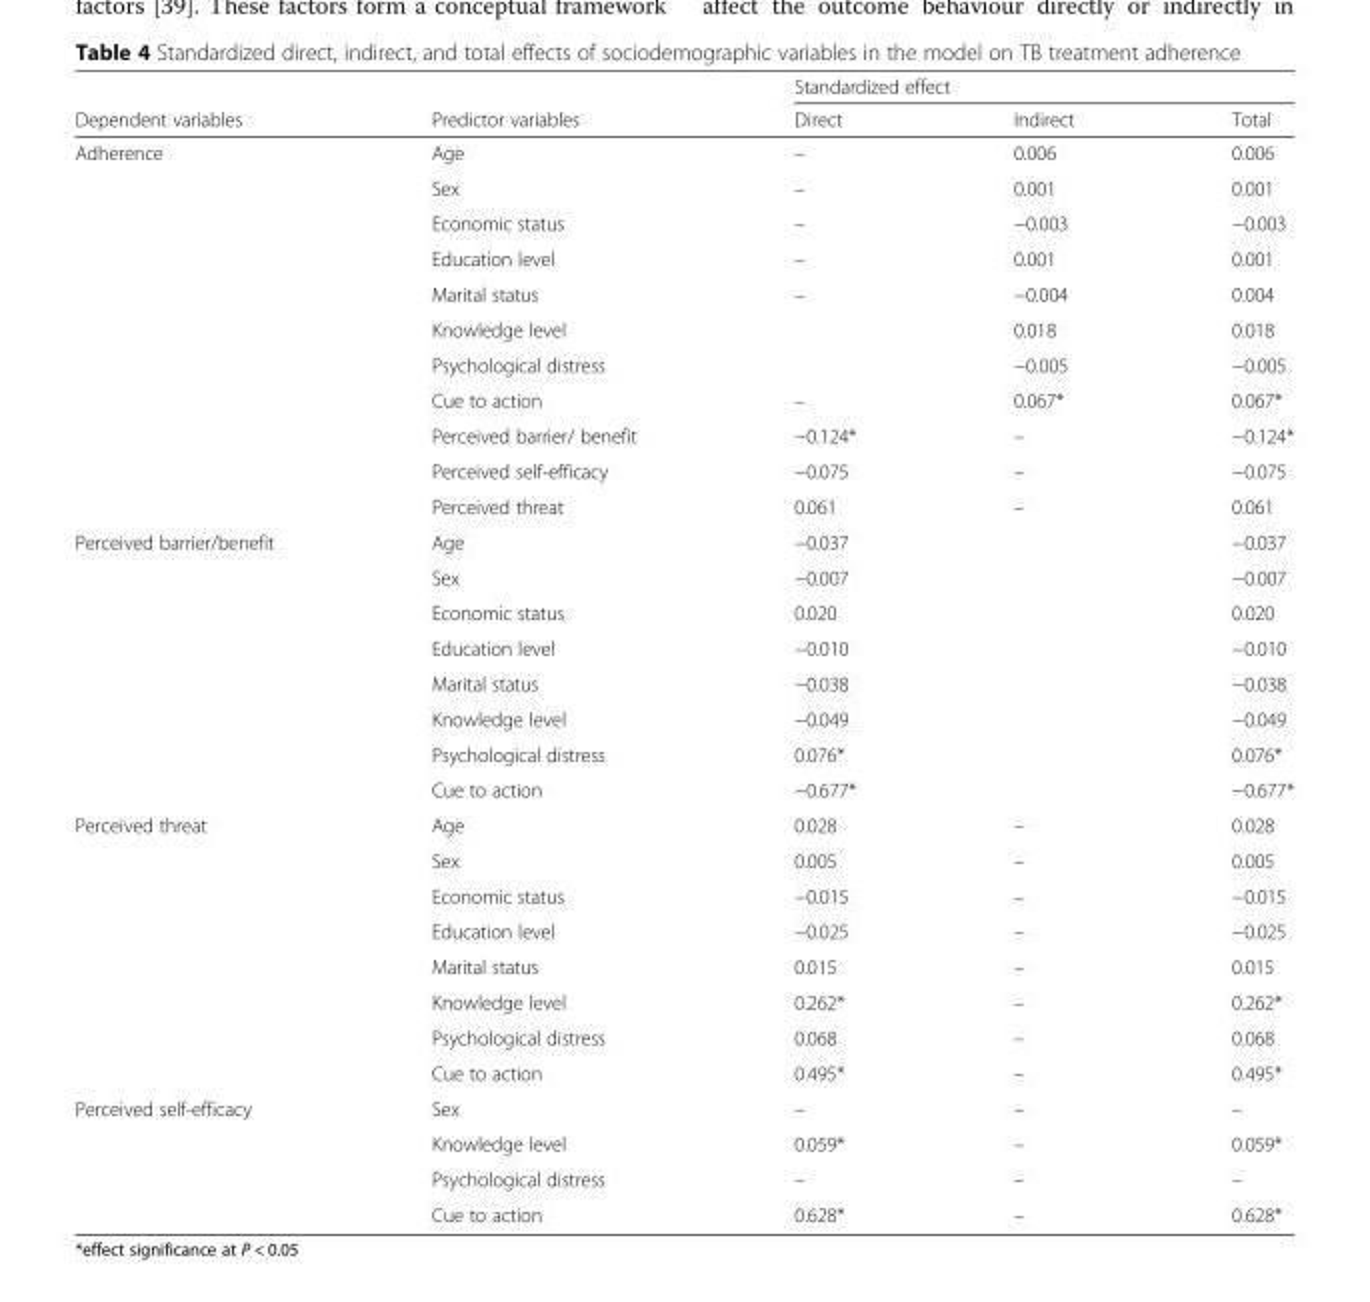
<table><thead><tr><td rowspan="2">Dependent variables</td><td rowspan="2">Predictor variables</td><td colspan="3">Standardized effect</td></tr><tr><td>Direct</td><td>Indirect</td><td>Total</td></tr></thead><tbody><tr><td rowspan="11">Adherence</td><td>Age</td><td>–</td><td>0.006</td><td>0.006</td></tr><tr><td>Sex</td><td>–</td><td>0.001</td><td>0.001</td></tr><tr><td>Economic status</td><td>–</td><td>−0.003</td><td>−0.003</td></tr><tr><td>Education level</td><td>–</td><td>0.001</td><td>0.001</td></tr><tr><td>Marital status</td><td>–</td><td>−0.004</td><td>0.004</td></tr><tr><td>Knowledge level</td><td></td><td>0.018</td><td>0.018</td></tr><tr><td>Psychological distress</td><td></td><td>−0.005</td><td>−0.005</td></tr><tr><td>Cue to action</td><td>–</td><td>0.067*</td><td>0.067*</td></tr><tr><td>Perceived barrier/ benefit</td><td>−0.124*</td><td>–</td><td>−0.124*</td></tr><tr><td>Perceived self-efficacy</td><td>−0.075</td><td>–</td><td>−0.075</td></tr><tr><td>Perceived threat</td><td>0.061</td><td>–</td><td>0.061</td></tr><tr><td rowspan="8">Perceived barrier/benefit</td><td>Age</td><td>−0.037</td><td></td><td>−0.037</td></tr><tr><td>Sex</td><td>−0.007</td><td></td><td>−0.007</td></tr><tr><td>Economic status</td><td>0.020</td><td></td><td>0.020</td></tr><tr><td>Education level</td><td>−0.010</td><td></td><td>−0.010</td></tr><tr><td>Marital status</td><td>−0.038</td><td></td><td>−0.038</td></tr><tr><td>Knowledge level</td><td>−0.049</td><td></td><td>−0.049</td></tr><tr><td>Psychological distress</td><td>0.076*</td><td></td><td>0.076*</td></tr><tr><td>Cue to action</td><td>−0.677*</td><td></td><td>−0.677*</td></tr><tr><td rowspan="8">Perceived threat</td><td>Age</td><td>0.028</td><td>–</td><td>0.028</td></tr><tr><td>Sex</td><td>0.005</td><td>–</td><td>0.005</td></tr><tr><td>Economic status</td><td>−0.015</td><td>–</td><td>−0.015</td></tr><tr><td>Education level</td><td>−0.025</td><td>–</td><td>−0.025</td></tr><tr><td>Marital status</td><td>0.015</td><td>–</td><td>0.015</td></tr><tr><td>Knowledge level</td><td>0.262*</td><td>–</td><td>0.262*</td></tr><tr><td>Psychological distress</td><td>0.068</td><td>–</td><td>0.068</td></tr><tr><td>Cue to action</td><td>0.495*</td><td>–</td><td>0.495*</td></tr><tr><td rowspan="4">Perceived self-efficacy</td><td>Sex</td><td>–</td><td>–</td><td>–</td></tr><tr><td>Knowledge level</td><td>0.059*</td><td>–</td><td>0.059*</td></tr><tr><td>Psychological distress</td><td>–</td><td>–</td><td>–</td></tr><tr><td>Cue to action</td><td>0.628*</td><td>–</td><td>0.628*</td></tr></tbody></table>